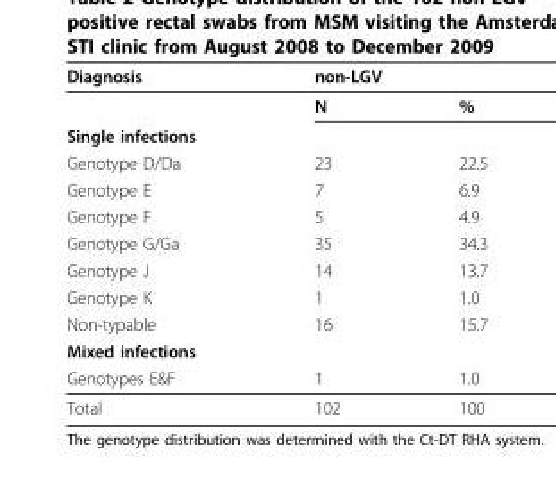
<table><thead><tr><td rowspan="2">Diagnosis</td><td colspan="2">non-LGV</td></tr><tr><td>N</td><td>%</td></tr></thead><tbody><tr><td colspan="3">Single infections</td></tr><tr><td>Genotype D/Da</td><td>23</td><td>22.5</td></tr><tr><td>Genotype E</td><td>7</td><td>6.9</td></tr><tr><td>Genotype F</td><td>5</td><td>4.9</td></tr><tr><td>Genotype G/Ga</td><td>35</td><td>34.3</td></tr><tr><td>Genotype J</td><td>14</td><td>13.7</td></tr><tr><td>Genotype K</td><td>1</td><td>1.0</td></tr><tr><td>Non-typable</td><td>16</td><td>15.7</td></tr><tr><td colspan="3">Mixed infections</td></tr><tr><td>Genotypes E&amp;F</td><td>1</td><td>1.0</td></tr><tr><td>Total</td><td>102</td><td>100</td></tr></tbody></table>